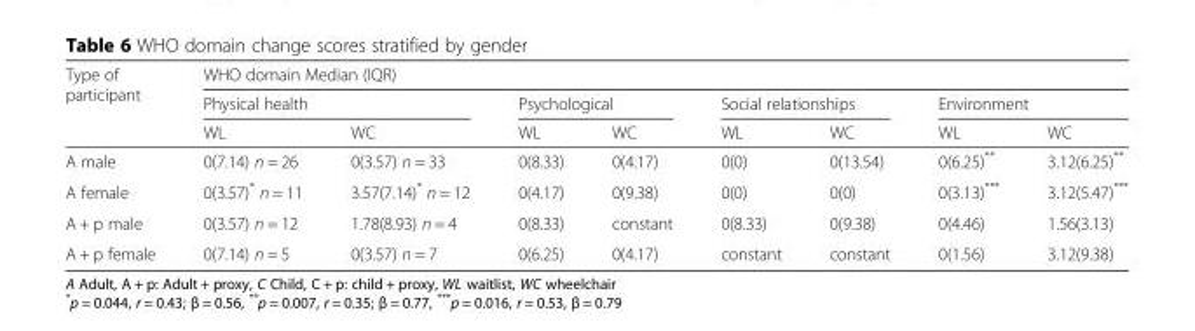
<table><thead><tr><td rowspan="3">Type of participant</td><td colspan="8">WHO domain Median (IQR)</td></tr><tr><td colspan="2">Physical health</td><td colspan="2">Psychological</td><td colspan="2">Social relationships</td><td colspan="2">Environment</td></tr><tr><td>WL</td><td>WC</td><td>WL</td><td>WC</td><td>WL</td><td>WC</td><td>WL</td><td>WC</td></tr></thead><tbody><tr><td>A male</td><td>0(7.14) n = 26</td><td>0(3.57) n = 33</td><td>0(8.33)</td><td>0(4.17)</td><td>0(0)</td><td>0(13.54)</td><td>0(6.25)**</td><td>3.12(6.25)**</td></tr><tr><td>A female</td><td>0(3.57)* n = 11</td><td>3.57(7.14)* n = 12</td><td>0(4.17)</td><td>0(9.38)</td><td>0(0)</td><td>0(0)</td><td>0(3.13)***</td><td>3.12(5.47)***</td></tr><tr><td>A + p male</td><td>0(3.57) n = 12</td><td>1.78(8.93) n = 4</td><td>0(8.33)</td><td>constant</td><td>0(8.33)</td><td>0(9.38)</td><td>0(4.46)</td><td>1.56(3.13)</td></tr><tr><td>A + p female</td><td>0(7.14) n = 5</td><td>0(3.57) n = 7</td><td>0(6.25)</td><td>0(4.17)</td><td>constant</td><td>constant</td><td>0(1.56)</td><td>3.12(9.38)</td></tr></tbody></table>